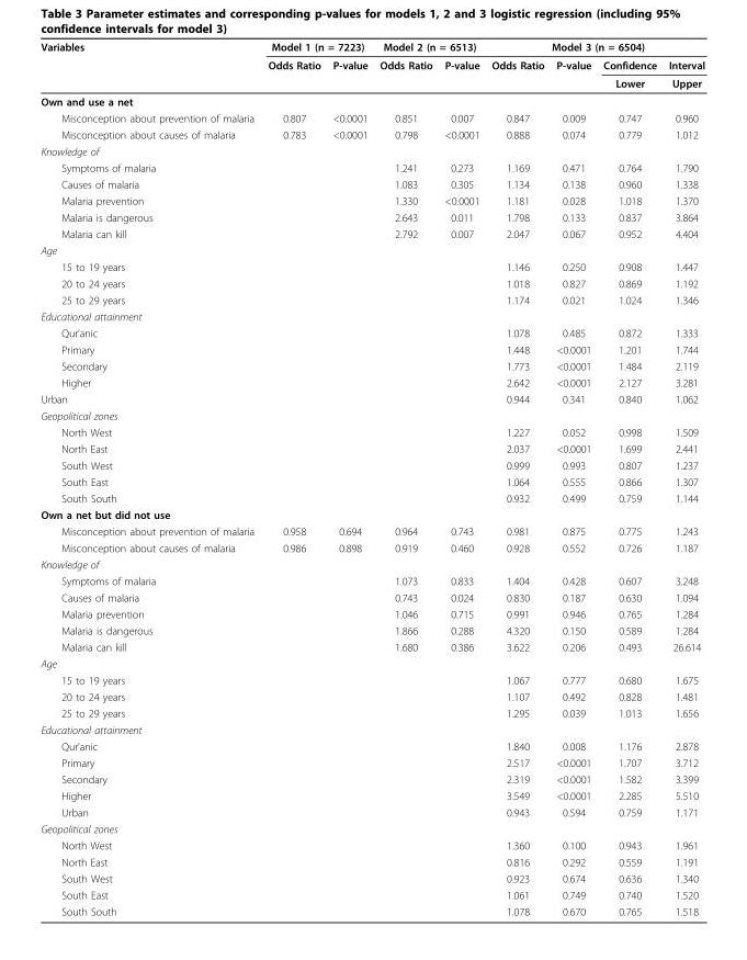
<table><thead><tr><td rowspan="3">Variables</td><td colspan="2">Model 1 (n = 7223)</td><td colspan="2">Model 2 (n = 6513)</td><td colspan="4">Model 3 (n = 6504)</td></tr><tr><td rowspan="2">Odds Ratio</td><td rowspan="2">P-value</td><td rowspan="2">Odds Ratio</td><td rowspan="2">P-value</td><td rowspan="2">Odds Ratio</td><td rowspan="2">P-value</td><td rowspan="2">Confidence Lower</td><td rowspan="2">Interval Upper</td></tr><tr></tr></thead><tbody><tr><td colspan="9">Own and use a net</td></tr><tr><td>Misconception about prevention of malaria</td><td>0.807</td><td>&lt;0.0001</td><td>0.851</td><td>0.007</td><td>0.847</td><td>0.009</td><td>0.747</td><td>0.960</td></tr><tr><td>Misconception about causes of malaria</td><td>0.783</td><td>&lt;0.0001</td><td>0.798</td><td>&lt;0.0001</td><td>0.888</td><td>0.074</td><td>0.779</td><td>1.012</td></tr><tr><td colspan="9">Knowledge of</td></tr><tr><td>Symptoms of malaria</td><td></td><td></td><td>1.241</td><td>0.273</td><td>1.169</td><td>0.471</td><td>0.764</td><td>1.790</td></tr><tr><td>Causes of malaria</td><td></td><td></td><td>1.083</td><td>0.305</td><td>1.134</td><td>0.138</td><td>0.960</td><td>1.338</td></tr><tr><td>Malaria prevention</td><td></td><td></td><td>1.330</td><td>&lt;0.0001</td><td>1.181</td><td>0.028</td><td>1.018</td><td>1.370</td></tr><tr><td>Malaria is dangerous</td><td></td><td></td><td>2.643</td><td>0.011</td><td>1.798</td><td>0.133</td><td>0.837</td><td>3.864</td></tr><tr><td>Malaria can kill</td><td></td><td></td><td>2.792</td><td>0.007</td><td>2.047</td><td>0.067</td><td>0.952</td><td>4.404</td></tr><tr><td colspan="9">Age</td></tr><tr><td>15 to 19 years</td><td></td><td></td><td></td><td></td><td>1.146</td><td>0.250</td><td>0.908</td><td>1.447</td></tr><tr><td>20 to 24 years</td><td></td><td></td><td></td><td></td><td>1.018</td><td>0.827</td><td>0.869</td><td>1.192</td></tr><tr><td>25 to 29 years</td><td></td><td></td><td></td><td></td><td>1.174</td><td>0.021</td><td>1.024</td><td>1.346</td></tr><tr><td colspan="9">Educational attainment</td></tr><tr><td>Qur’anic</td><td></td><td></td><td></td><td></td><td>1.078</td><td>0.485</td><td>0.872</td><td>1.333</td></tr><tr><td>Primary</td><td></td><td></td><td></td><td></td><td>1.448</td><td>&lt;0.0001</td><td>1.201</td><td>1.744</td></tr><tr><td>Secondary</td><td></td><td></td><td></td><td></td><td>1.773</td><td>&lt;0.0001</td><td>1.484</td><td>2.119</td></tr><tr><td>Higher</td><td></td><td></td><td></td><td></td><td>2.642</td><td>&lt;0.0001</td><td>2.127</td><td>3.281</td></tr><tr><td>Urban</td><td></td><td></td><td></td><td></td><td>0.944</td><td>0.341</td><td>0.840</td><td>1.062</td></tr><tr><td colspan="9">Geopolitical zones</td></tr><tr><td>North West</td><td></td><td></td><td></td><td></td><td>1.227</td><td>0.052</td><td>0.998</td><td>1.509</td></tr><tr><td>North East</td><td></td><td></td><td></td><td></td><td>2.037</td><td>&lt;0.0001</td><td>1.699</td><td>2.441</td></tr><tr><td>South West</td><td></td><td></td><td></td><td></td><td>0.999</td><td>0.993</td><td>0.807</td><td>1.237</td></tr><tr><td>South East</td><td></td><td></td><td></td><td></td><td>1.064</td><td>0.555</td><td>0.866</td><td>1.307</td></tr><tr><td>South South</td><td></td><td></td><td></td><td></td><td>0.932</td><td>0.499</td><td>0.759</td><td>1.144</td></tr><tr><td colspan="9">Own a net but did not use</td></tr><tr><td>Misconception about prevention of malaria</td><td>0.958</td><td>0.694</td><td>0.964</td><td>0.743</td><td>0.981</td><td>0.875</td><td>0.775</td><td>1.243</td></tr><tr><td>Misconception about causes of malaria</td><td>0.986</td><td>0.898</td><td>0.919</td><td>0.460</td><td>0.928</td><td>0.552</td><td>0.726</td><td>1.187</td></tr><tr><td colspan="9">Knowledge of</td></tr><tr><td>Symptoms of malaria</td><td></td><td></td><td>1.073</td><td>0.833</td><td>1.404</td><td>0.428</td><td>0.607</td><td>3.248</td></tr><tr><td>Causes of malaria</td><td></td><td></td><td>0.743</td><td>0.024</td><td>0.830</td><td>0.187</td><td>0.630</td><td>1.094</td></tr><tr><td>Malaria prevention</td><td></td><td></td><td>1.046</td><td>0.715</td><td>0.991</td><td>0.946</td><td>0.765</td><td>1.284</td></tr><tr><td>Malaria is dangerous</td><td></td><td></td><td>1.866</td><td>0.288</td><td>4.320</td><td>0.150</td><td>0.589</td><td>1.284</td></tr><tr><td>Malaria can kill</td><td></td><td></td><td>1.680</td><td>0.386</td><td>3.622</td><td>0.206</td><td>0.493</td><td>26.614</td></tr><tr><td colspan="9">Age</td></tr><tr><td>15 to 19 years</td><td></td><td></td><td></td><td></td><td>1.067</td><td>0.777</td><td>0.680</td><td>1.675</td></tr><tr><td>20 to 24 years</td><td></td><td></td><td></td><td></td><td>1.107</td><td>0.492</td><td>0.828</td><td>1.481</td></tr><tr><td>25 to 29 years</td><td></td><td></td><td></td><td></td><td>1.295</td><td>0.039</td><td>1.013</td><td>1.656</td></tr><tr><td colspan="9">Educational attainment</td></tr><tr><td>Qur’anic</td><td></td><td></td><td></td><td></td><td>1.840</td><td>0.008</td><td>1.176</td><td>2.878</td></tr><tr><td>Primary</td><td></td><td></td><td></td><td></td><td>2.517</td><td>&lt;0.0001</td><td>1.707</td><td>3.712</td></tr><tr><td>Secondary</td><td></td><td></td><td></td><td></td><td>2.319</td><td>&lt;0.0001</td><td>1.582</td><td>3.399</td></tr><tr><td>Higher</td><td></td><td></td><td></td><td></td><td>3.549</td><td>&lt;0.0001</td><td>2.285</td><td>5.510</td></tr><tr><td>Urban</td><td></td><td></td><td></td><td></td><td>0.943</td><td>0.594</td><td>0.759</td><td>1.171</td></tr><tr><td colspan="9">Geopolitical zones</td></tr><tr><td>North West</td><td></td><td></td><td></td><td></td><td>1.360</td><td>0.100</td><td>0.943</td><td>1.961</td></tr><tr><td>North East</td><td></td><td></td><td></td><td></td><td>0.816</td><td>0.292</td><td>0.559</td><td>1.191</td></tr><tr><td>South West</td><td></td><td></td><td></td><td></td><td>0.923</td><td>0.674</td><td>0.636</td><td>1.340</td></tr><tr><td>South East</td><td></td><td></td><td></td><td></td><td>1.061</td><td>0.749</td><td>0.740</td><td>1.520</td></tr><tr><td>South South</td><td></td><td></td><td></td><td></td><td>1.078</td><td>0.670</td><td>0.765</td><td>1.518</td></tr></tbody></table>